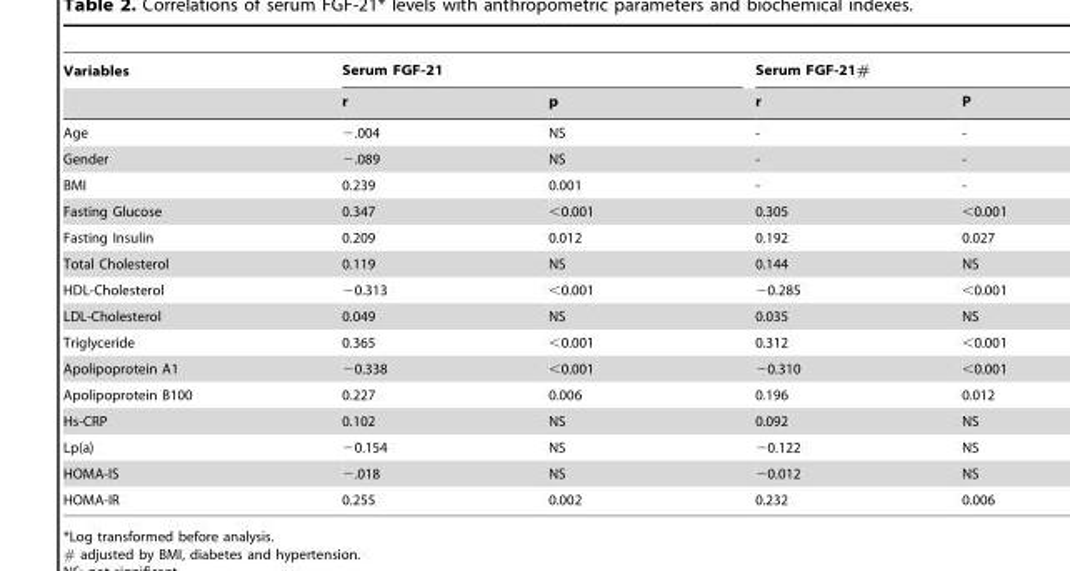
<table><thead><tr><td rowspan="2">Variables</td><td colspan="2">Serum FGF-21</td><td colspan="2">Serum FGF-21#</td></tr><tr><td>r</td><td>p</td><td>r</td><td>P</td></tr></thead><tbody><tr><td>Age</td><td>−.004</td><td>NS</td><td>-</td><td>-</td></tr><tr><td>Gender</td><td>−.089</td><td>NS</td><td>-</td><td>-</td></tr><tr><td>BMI</td><td>0.239</td><td>0.001</td><td>-</td><td>-</td></tr><tr><td>Fasting Glucose</td><td>0.347</td><td>&lt;0.001</td><td>0.305</td><td>&lt;0.001</td></tr><tr><td>Fasting Insulin</td><td>0.209</td><td>0.012</td><td>0.192</td><td>0.027</td></tr><tr><td>Total Cholesterol</td><td>0.119</td><td>NS</td><td>0.144</td><td>NS</td></tr><tr><td>HDL-Cholesterol</td><td>−0.313</td><td>&lt;0.001</td><td>−0.285</td><td>&lt;0.001</td></tr><tr><td>LDL-Cholesterol</td><td>0.049</td><td>NS</td><td>0.035</td><td>NS</td></tr><tr><td>Triglyceride</td><td>0.365</td><td>&lt;0.001</td><td>0.312</td><td>&lt;0.001</td></tr><tr><td>Apolipoprotein A1</td><td>−0.338</td><td>&lt;0.001</td><td>−0.310</td><td>&lt;0.001</td></tr><tr><td>Apolipoprotein B100</td><td>0.227</td><td>0.006</td><td>0.196</td><td>0.012</td></tr><tr><td>Hs-CRP</td><td>0.102</td><td>NS</td><td>0.092</td><td>NS</td></tr><tr><td>Lp(a)</td><td>−0.154</td><td>NS</td><td>−0.122</td><td>NS</td></tr><tr><td>HOMA-IS</td><td>−.018</td><td>NS</td><td>−0.012</td><td>NS</td></tr><tr><td>HOMA-IR</td><td>0.255</td><td>0.002</td><td>0.232</td><td>0.006</td></tr></tbody></table>